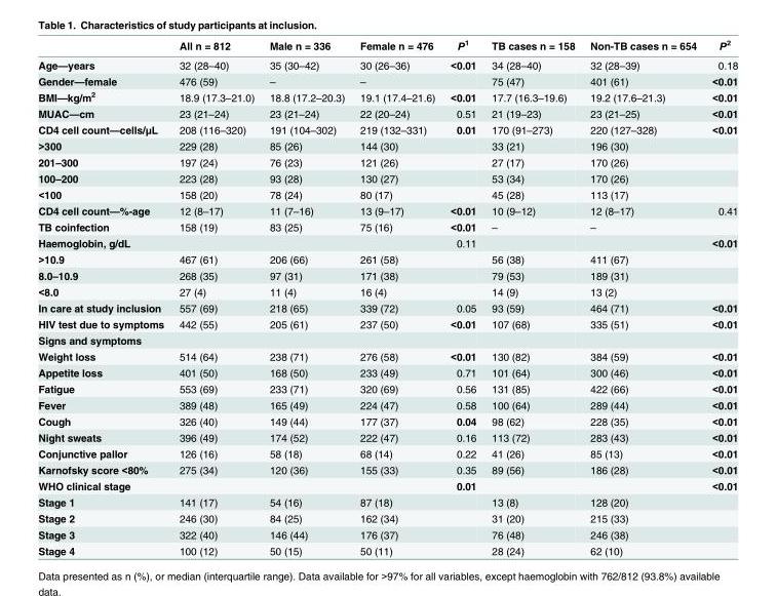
<table><thead><tr><td></td><td>All n = 812</td><td>Male n = 336</td><td>Female n = 476</td><td>P<sup>1</sup></td><td>TB cases n = 158</td><td>Non-TB cases n = 654</td><td>P<sup>2</sup></td></tr></thead><tbody><tr><td>Age—years</td><td>32 (28–40)</td><td>35 (30–42)</td><td>30 (26–36)</td><td>&lt;0.01</td><td>34 (28–40)</td><td>32 (28–39)</td><td>0.18</td></tr><tr><td>Gender—female</td><td>476 (59)</td><td>–</td><td>–</td><td></td><td>75 (47)</td><td>401 (61)</td><td>&lt;0.01</td></tr><tr><td>BMI—kg/m<sup>2</sup></td><td>18.9 (17.3–21.0)</td><td>18.8 (17.2–20.3)</td><td>19.1 (17.4–21.6)</td><td>&lt;0.01</td><td>17.7 (16.3–19.6)</td><td>19.2 (17.6–21.3)</td><td>&lt;0.01</td></tr><tr><td>MUAC—cm</td><td>23 (21–24)</td><td>23 (21–24)</td><td>22 (20–24)</td><td>0.51</td><td>21 (19–23)</td><td>23 (21–25)</td><td>&lt;0.01</td></tr><tr><td>CD4 cell count—cells/μL</td><td>208 (116–320)</td><td>191 (104–302)</td><td>219 (132–331)</td><td>0.01</td><td>170 (91–273)</td><td>220 (127–328)</td><td>&lt;0.01</td></tr><tr><td>&gt;300</td><td>229 (28)</td><td>85 (26)</td><td>144 (30)</td><td></td><td>33 (21)</td><td>196 (30)</td><td></td></tr><tr><td>201–300</td><td>197 (24)</td><td>76 (23)</td><td>121 (26)</td><td></td><td>27 (17)</td><td>170 (26)</td><td></td></tr><tr><td>100–200</td><td>223 (28)</td><td>93 (28)</td><td>130 (27)</td><td></td><td>53 (34)</td><td>170 (26)</td><td></td></tr><tr><td>&lt;100</td><td>158 (20)</td><td>78 (24)</td><td>80 (17)</td><td></td><td>45 (28)</td><td>113 (17)</td><td></td></tr><tr><td>CD4 cell count—%-age</td><td>12 (8–17)</td><td>11 (7–16)</td><td>13 (9–17)</td><td>&lt;0.01</td><td>10 (9–12)</td><td>12 (8–17)</td><td>0.41</td></tr><tr><td>TB coinfection</td><td>158 (19)</td><td>83 (25)</td><td>75 (16)</td><td>&lt;0.01</td><td>–</td><td>–</td><td></td></tr><tr><td>Haemoglobin, g/dL</td><td></td><td></td><td></td><td>0.11</td><td></td><td></td><td>&lt;0.01</td></tr><tr><td>&gt;10.9</td><td>467 (61)</td><td>206 (66)</td><td>261 (58)</td><td></td><td>56 (38)</td><td>411 (67)</td><td></td></tr><tr><td>8.0–10.9</td><td>268 (35)</td><td>97 (31)</td><td>171 (38)</td><td></td><td>79 (53)</td><td>189 (31)</td><td></td></tr><tr><td>&lt;8.0</td><td>27 (4)</td><td>11 (4)</td><td>16 (4)</td><td></td><td>14 (9)</td><td>13 (2)</td><td></td></tr><tr><td>In care at study inclusion</td><td>557 (69)</td><td>218 (65)</td><td>339 (72)</td><td>0.05</td><td>93 (59)</td><td>464 (71)</td><td>&lt;0.01</td></tr><tr><td>HIV test due to symptoms</td><td>442 (55)</td><td>205 (61)</td><td>237 (50)</td><td>&lt;0.01</td><td>107 (68)</td><td>335 (51)</td><td>&lt;0.01</td></tr><tr><td colspan="8">Signs and symptoms</td></tr><tr><td>Weight loss</td><td>514 (64)</td><td>238 (71)</td><td>276 (58)</td><td>&lt;0.01</td><td>130 (82)</td><td>384 (59)</td><td>&lt;0.01</td></tr><tr><td>Appetite loss</td><td>401 (50)</td><td>168 (50)</td><td>233 (49)</td><td>0.71</td><td>101 (64)</td><td>300 (46)</td><td>&lt;0.01</td></tr><tr><td>Fatigue</td><td>553 (69)</td><td>233 (71)</td><td>320 (69)</td><td>0.56</td><td>131 (85)</td><td>422 (66)</td><td>&lt;0.01</td></tr><tr><td>Fever</td><td>389 (48)</td><td>165 (49)</td><td>224 (47)</td><td>0.58</td><td>100 (64)</td><td>289 (44)</td><td>&lt;0.01</td></tr><tr><td>Cough</td><td>326 (40)</td><td>149 (44)</td><td>177 (37)</td><td>0.04</td><td>98 (62)</td><td>228 (35)</td><td>&lt;0.01</td></tr><tr><td>Night sweats</td><td>396 (49)</td><td>174 (52)</td><td>222 (47)</td><td>0.16</td><td>113 (72)</td><td>283 (43)</td><td>&lt;0.01</td></tr><tr><td>Conjunctive pallor</td><td>126 (16)</td><td>58 (18)</td><td>68 (14)</td><td>0.22</td><td>41 (26)</td><td>85 (13)</td><td>&lt;0.01</td></tr><tr><td>Karnofsky score &lt;80%</td><td>275 (34)</td><td>120 (36)</td><td>155 (33)</td><td>0.35</td><td>89 (56)</td><td>186 (28)</td><td>&lt;0.01</td></tr><tr><td>WHO clinical stage</td><td></td><td></td><td></td><td>0.01</td><td></td><td></td><td>&lt;0.01</td></tr><tr><td>Stage 1</td><td>141 (17)</td><td>54 (16)</td><td>87 (18)</td><td></td><td>13 (8)</td><td>128 (20)</td><td></td></tr><tr><td>Stage 2</td><td>246 (30)</td><td>84 (25)</td><td>162 (34)</td><td></td><td>31 (20)</td><td>215 (33)</td><td></td></tr><tr><td>Stage 3</td><td>322 (40)</td><td>146 (44)</td><td>176 (37)</td><td></td><td>76 (48)</td><td>246 (38)</td><td></td></tr><tr><td>Stage 4</td><td>100 (12)</td><td>50 (15)</td><td>50 (11)</td><td></td><td>28 (24)</td><td>62 (10)</td><td></td></tr></tbody></table>